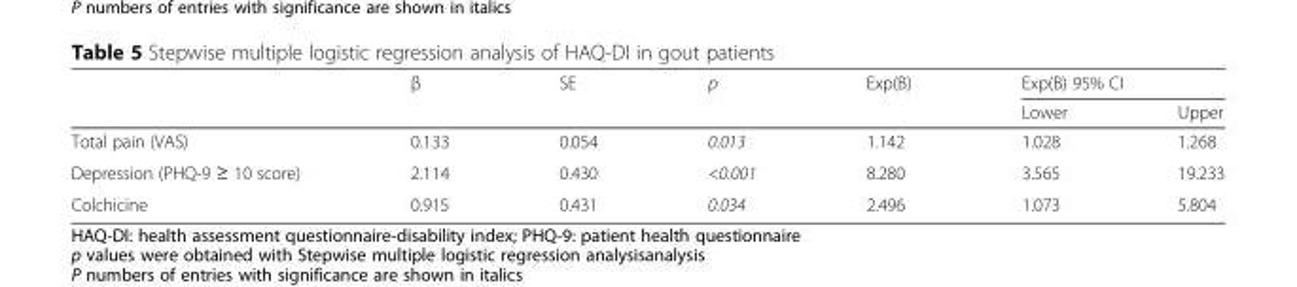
<table><thead><tr><td rowspan="2"></td><td rowspan="2">β</td><td rowspan="2">SE</td><td rowspan="2">p</td><td rowspan="2">Exp(B)</td><td colspan="2">Exp(B) 95% CI</td></tr><tr><td>Lower</td><td>Upper</td></tr></thead><tbody><tr><td>Total pain (VAS)</td><td>0.133</td><td>0.054</td><td>0.013</td><td>1.142</td><td>1.028</td><td>1.268</td></tr><tr><td>Depression (PHQ-9 ≥ 10 score)</td><td>2.114</td><td>0.430</td><td>&lt;0.001</td><td>8.280</td><td>3.565</td><td>19.233</td></tr><tr><td>Colchicine</td><td>0.915</td><td>0.431</td><td>0.034</td><td>2.496</td><td>1.073</td><td>5.804</td></tr></tbody></table>